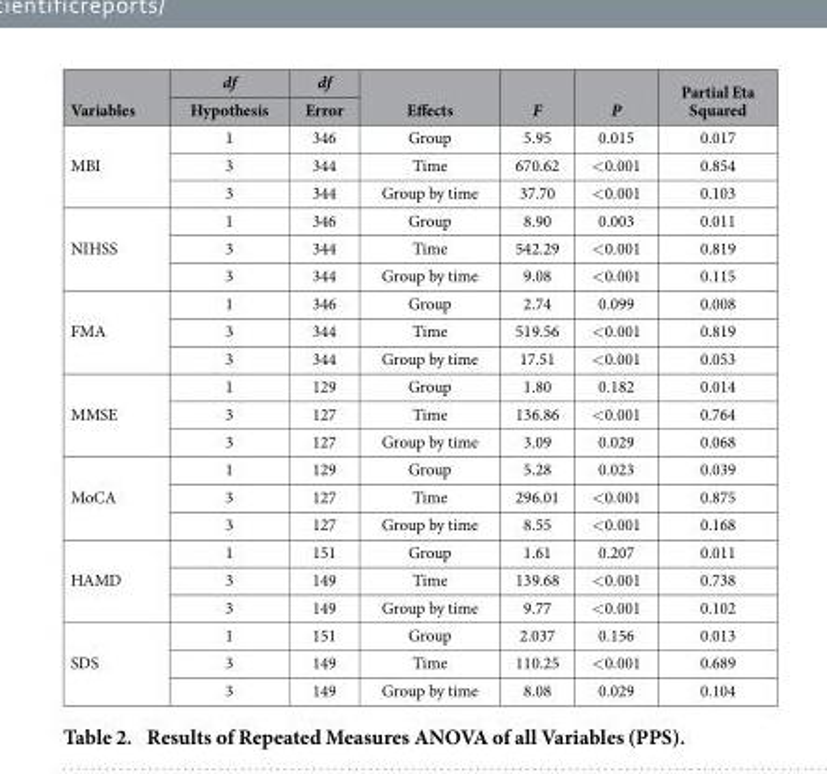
<table><thead><tr><td rowspan="2">Variables</td><td rowspan="2">df Hypothesis</td><td rowspan="2">df Error</td><td rowspan="2">Effects</td><td rowspan="2">F</td><td rowspan="2">P</td><td rowspan="2">Partial Eta Squared</td></tr><tr></tr></thead><tbody><tr><td rowspan="3">MBI</td><td>1</td><td>346</td><td>Group</td><td>5.95</td><td>0.015</td><td>0.017</td></tr><tr><td>3</td><td>344</td><td>Time</td><td>670.62</td><td>&lt; 0.001</td><td>0.854</td></tr><tr><td>3</td><td>344</td><td>Group by time</td><td>37.70</td><td>&lt; 0.001</td><td>0.103</td></tr><tr><td rowspan="3">NIHSS</td><td>1</td><td>346</td><td>Group</td><td>8.90</td><td>0.003</td><td>0.011</td></tr><tr><td>3</td><td>344</td><td>Time</td><td>542.29</td><td>&lt; 0.001</td><td>0.819</td></tr><tr><td>3</td><td>344</td><td>Group by time</td><td>9.08</td><td>&lt; 0.001</td><td>0.115</td></tr><tr><td rowspan="3">FMA</td><td>1</td><td>346</td><td>Group</td><td>2.74</td><td>0.099</td><td>0.008</td></tr><tr><td>3</td><td>344</td><td>Time</td><td>519.56</td><td>&lt; 0.001</td><td>0.819</td></tr><tr><td>3</td><td>344</td><td>Group by time</td><td>17.51</td><td>&lt; 0.001</td><td>0.053</td></tr><tr><td rowspan="3">MMSE</td><td>1</td><td>129</td><td>Group</td><td>1.80</td><td>0.182</td><td>0.014</td></tr><tr><td>3</td><td>127</td><td>Time</td><td>136.86</td><td>&lt; 0.001</td><td>0.764</td></tr><tr><td>3</td><td>127</td><td>Group by time</td><td>3.09</td><td>0.029</td><td>0.068</td></tr><tr><td rowspan="3">MoCA</td><td>1</td><td>129</td><td>Group</td><td>5.28</td><td>0.023</td><td>0.039</td></tr><tr><td>3</td><td>127</td><td>Time</td><td>296.01</td><td>&lt; 0.001</td><td>0.875</td></tr><tr><td>3</td><td>127</td><td>Group by time</td><td>8.55</td><td>&lt; 0.001</td><td>0.168</td></tr><tr><td rowspan="3">HAMD</td><td>1</td><td>151</td><td>Group</td><td>1.61</td><td>0.207</td><td>0.011</td></tr><tr><td>3</td><td>149</td><td>Time</td><td>139.68</td><td>&lt; 0.001</td><td>0.738</td></tr><tr><td>3</td><td>149</td><td>Group by time</td><td>9.77</td><td>&lt; 0.001</td><td>0.102</td></tr><tr><td rowspan="3">SDS</td><td>1</td><td>151</td><td>Group</td><td>2.037</td><td>0.156</td><td>0.013</td></tr><tr><td>3</td><td>149</td><td>Time</td><td>110.25</td><td>&lt; 0.001</td><td>0.689</td></tr><tr><td>3</td><td>149</td><td>Group by time</td><td>8.08</td><td>0.029</td><td>0.104</td></tr></tbody></table>